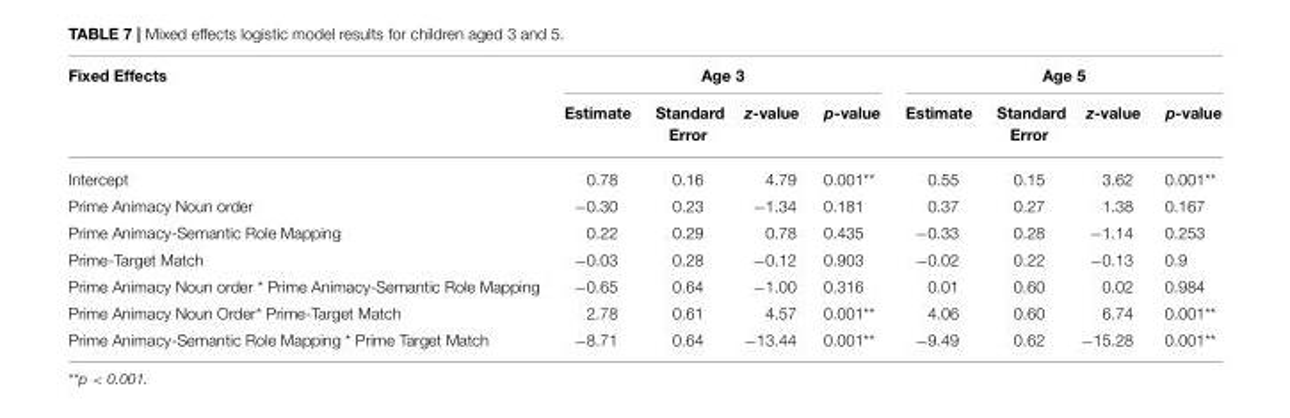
<table><thead><tr><td rowspan="2">Fixed Effects</td><td colspan="4">Age 3</td><td colspan="4">Age 5</td></tr><tr><td>Estimate</td><td>Standard Error</td><td>z-value</td><td>p-value</td><td>Estimate</td><td>Standard Error</td><td>z-value</td><td>p-value</td></tr></thead><tbody><tr><td>Intercept</td><td>0.78</td><td>0.16</td><td>4.79</td><td>0.001**</td><td>0.55</td><td>0.15</td><td>3.62</td><td>0.001**</td></tr><tr><td>Prime Animacy Noun order</td><td>−0.30</td><td>0.23</td><td>−1.34</td><td>0.181</td><td>0.37</td><td>0.27</td><td>1.38</td><td>0.167</td></tr><tr><td>Prime Animacy-Semantic Role Mapping</td><td>0.22</td><td>0.29</td><td>0.78</td><td>0.435</td><td>−0.33</td><td>0.28</td><td>−1.14</td><td>0.253</td></tr><tr><td>Prime-Target Match</td><td>−0.03</td><td>0.28</td><td>−0.12</td><td>0.903</td><td>−0.02</td><td>0.22</td><td>−0.13</td><td>0.9</td></tr><tr><td>Prime Animacy Noun order * Prime Animacy-Semantic Role Mapping</td><td>−0.65</td><td>0.64</td><td>−1.00</td><td>0.316</td><td>0.01</td><td>0.60</td><td>0.02</td><td>0.984</td></tr><tr><td>Prime Animacy Noun Order* Prime-Target Match</td><td>2.78</td><td>0.61</td><td>4.57</td><td>0.001**</td><td>4.06</td><td>0.60</td><td>6.74</td><td>0.001**</td></tr><tr><td>Prime Animacy-Semantic Role Mapping * Prime Target Match</td><td>−8.71</td><td>0.64</td><td>−13.44</td><td>0.001**</td><td>−9.49</td><td>0.62</td><td>−15.28</td><td>0.001**</td></tr></tbody></table>